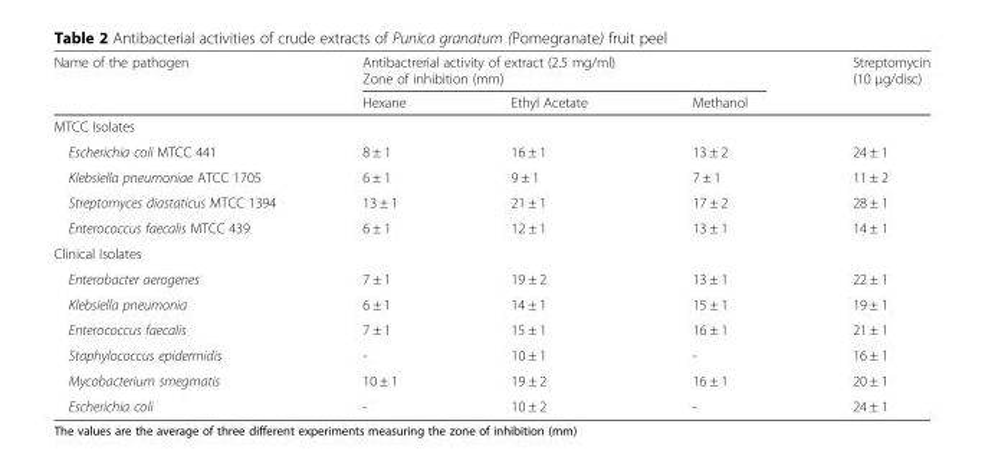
<table><thead><tr><td rowspan="3">Name of the pathogen</td><td rowspan="2" colspan="3">Antibactrerial activity of extract (2.5 mg/ml) Zone of inhibition (mm)</td><td rowspan="3">Streptomycin (10 μg/disc)</td></tr><tr></tr><tr><td>Hexane</td><td>Ethyl Acetate</td><td>Methanol</td></tr></thead><tbody><tr><td colspan="5">MTCC Isolates</td></tr><tr><td>Escherichia coli MTCC 441</td><td>8 ± 1</td><td>16 ± 1</td><td>13 ± 2</td><td>24 ± 1</td></tr><tr><td>Klebsiella pneumoniae ATCC 1705</td><td>6 ± 1</td><td>9 ± 1</td><td>7 ± 1</td><td>11 ± 2</td></tr><tr><td>Streptomyces diastaticus MTCC 1394</td><td>13 ± 1</td><td>21 ± 1</td><td>17 ± 2</td><td>28 ± 1</td></tr><tr><td>Enterococcus faecalis MTCC 439</td><td>6 ± 1</td><td>12 ± 1</td><td>13 ± 1</td><td>14 ± 1</td></tr><tr><td colspan="5">Clinical Isolates</td></tr><tr><td>Enterobacter aerogenes</td><td>7 ± 1</td><td>19 ± 2</td><td>13 ± 1</td><td>22 ± 1</td></tr><tr><td>Klebsiella pneumonia</td><td>6 ± 1</td><td>14 ± 1</td><td>15 ± 1</td><td>19 ± 1</td></tr><tr><td>Enterococcus faecalis</td><td>7 ± 1</td><td>15 ± 1</td><td>16 ± 1</td><td>21 ± 1</td></tr><tr><td>Staphylococcus epidermidis</td><td>-</td><td>10 ± 1</td><td>-</td><td>16 ± 1</td></tr><tr><td>Mycobacterium smegmatis</td><td>10 ± 1</td><td>19 ± 2</td><td>16 ± 1</td><td>20 ± 1</td></tr><tr><td>Escherichia coli</td><td>-</td><td>10 ± 2</td><td>-</td><td>24 ± 1</td></tr></tbody></table>